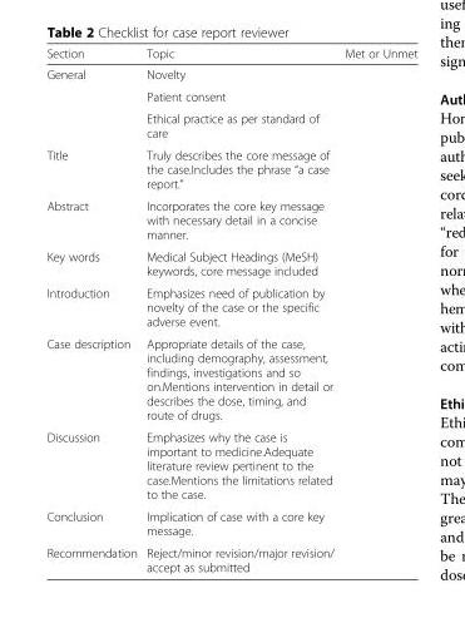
<table><thead><tr><td>Section</td><td>Topic</td><td>Met or Unmet</td></tr></thead><tbody><tr><td rowspan="3">General</td><td>Novelty</td><td></td></tr><tr><td>Patient consent</td><td></td></tr><tr><td>Ethical practice as per standard of care</td><td></td></tr><tr><td>Title</td><td>Truly describes the core message of the case.Includes the phrase “a case report.”</td><td></td></tr><tr><td>Abstract</td><td>Incorporates the core key message with necessary detail in a concise manner.</td><td></td></tr><tr><td>Key words</td><td>Medical Subject Headings (MeSH) keywords, core message included</td><td></td></tr><tr><td>Introduction</td><td>Emphasizes need of publication by novelty of the case or the specific adverse event.</td><td></td></tr><tr><td>Case description</td><td>Appropriate details of the case, including demography, assessment, findings, investigations and so on.Mentions intervention in detail or describes the dose, timing, and route of drugs.</td><td></td></tr><tr><td>Discussion</td><td>Emphasizes why the case is important to medicine.Adequate literature review pertinent to the case.Mentions the limitations related to the case.</td><td></td></tr><tr><td>Conclusion</td><td>Implication of case with a core key message.</td><td></td></tr><tr><td>Recommendation</td><td>Reject/minor revision/major revision/ accept as submitted</td><td></td></tr></tbody></table>